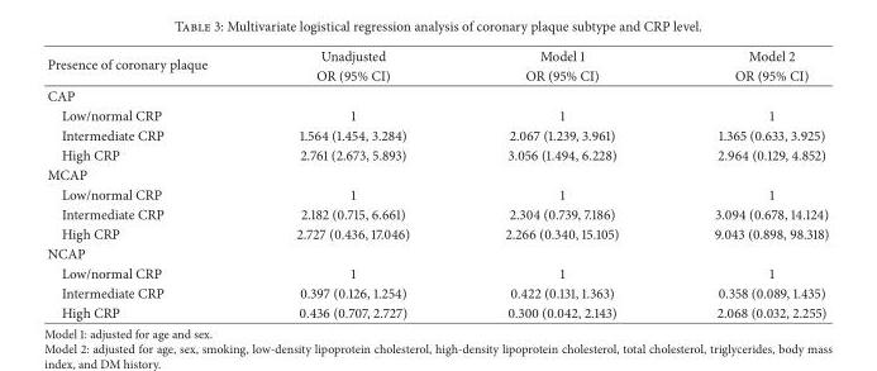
<table><thead><tr><td rowspan="2">Presence of coronary plaque</td><td rowspan="2">Unadjusted OR (95% CI)</td><td rowspan="2">Model 1 OR (95% CI)</td><td rowspan="2">Model 2 OR (95% CI)</td></tr><tr></tr></thead><tbody><tr><td colspan="4">CAP</td></tr><tr><td>Low/normal CRP</td><td>1</td><td>1</td><td>1</td></tr><tr><td>Intermediate CRP</td><td>1.564 (1.454, 3.284)</td><td>2.067 (1.239, 3.961)</td><td>1.365 (0.633, 3.925)</td></tr><tr><td>High CRP</td><td>2.761 (2.673, 5.893)</td><td>3.056 (1.494, 6.228)</td><td>2.964 (0.129, 4.852)</td></tr><tr><td colspan="4">MCAP</td></tr><tr><td>Low/normal CRP</td><td>1</td><td>1</td><td>1</td></tr><tr><td>Intermediate CRP</td><td>2.182 (0.715, 6.661)</td><td>2.304 (0.739, 7.186)</td><td>3.094 (0.678, 14.124)</td></tr><tr><td>High CRP</td><td>2.727 (0.436, 17.046)</td><td>2.266 (0.340, 15.105)</td><td>9.043 (0.898, 98.318)</td></tr><tr><td colspan="4">NCAP</td></tr><tr><td>Low/normal CRP</td><td>1</td><td>1</td><td>1</td></tr><tr><td>Intermediate CRP</td><td>0.397 (0.126, 1.254)</td><td>0.422 (0.131, 1.363)</td><td>0.358 (0.089, 1.435)</td></tr><tr><td>High CRP</td><td>0.436 (0.707, 2.727)</td><td>0.300 (0.042, 2.143)</td><td>2.068 (0.032, 2.255)</td></tr></tbody></table>